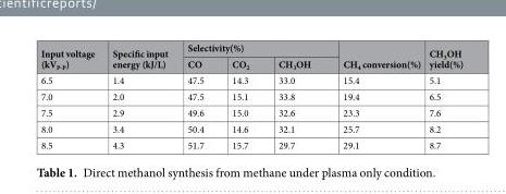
<table><thead><tr><td rowspan="2">Input voltage (kV<sub>P-P</sub>)</td><td rowspan="2">Specific input energy (kJ/L)</td><td colspan="3">Selectivity(%)</td><td rowspan="2">CH<sub>4</sub> conversion(%)</td><td rowspan="2">CH<sub>3</sub>OH yield(%)</td></tr><tr><td>CO</td><td>CO<sub>2</sub></td><td>CH<sub>3</sub>OH</td></tr></thead><tbody><tr><td>6.5</td><td>1.4</td><td>47.5</td><td>14.3</td><td>33.0</td><td>15.4</td><td>5.1</td></tr><tr><td>7.0</td><td>2.0</td><td>47.5</td><td>15.1</td><td>33.8</td><td>19.4</td><td>6.5</td></tr><tr><td>7.5</td><td>2.9</td><td>49.6</td><td>15.0</td><td>32.6</td><td>23.3</td><td>7.6</td></tr><tr><td>8.0</td><td>3.4</td><td>50.4</td><td>14.6</td><td>32.1</td><td>25.7</td><td>8.2</td></tr><tr><td>8.5</td><td>4.3</td><td>51.7</td><td>15.7</td><td>29.7</td><td>29.1</td><td>8.7</td></tr></tbody></table>